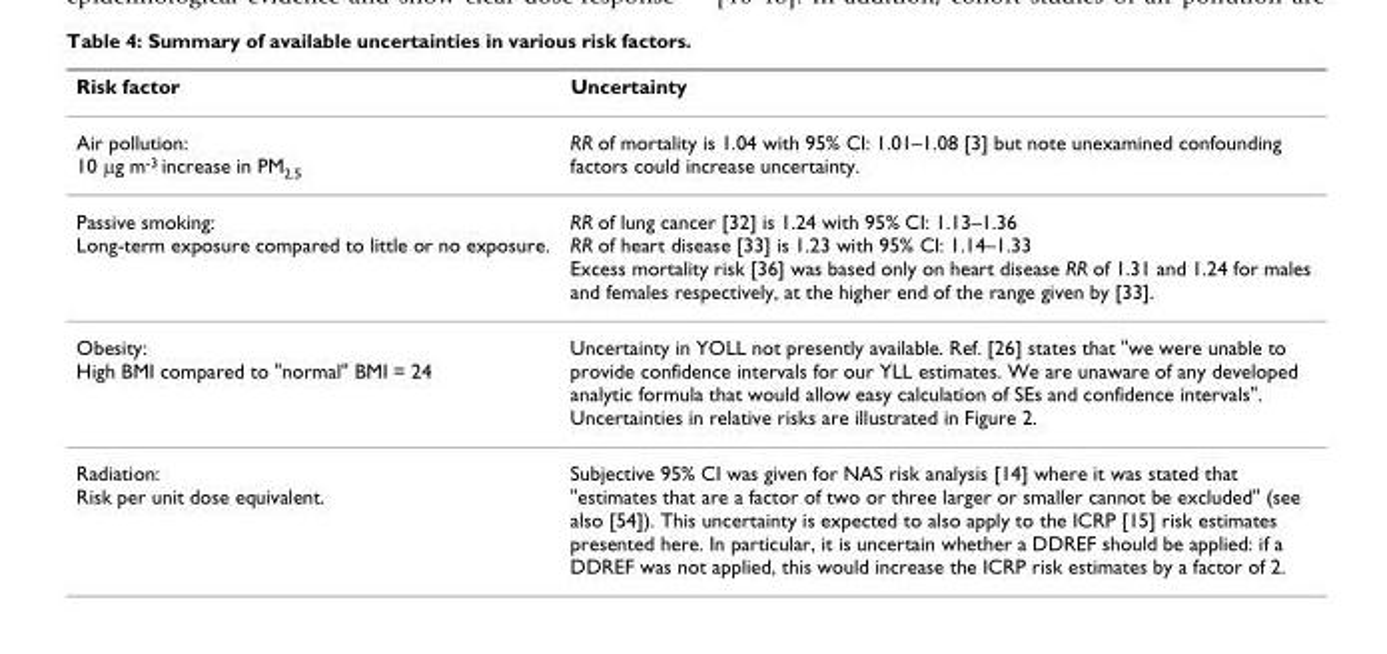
<table><thead><tr><td>Risk factor</td><td>Uncertainty</td></tr></thead><tbody><tr><td>Air pollution: 10 μg m<sup>-3</sup> increase in PM<sub>2.5</sub></td><td>RR of mortality is 1.04 with 95% CI: 1.01–1.08 [3] but note unexamined confounding factors could increase uncertainty.</td></tr><tr><td>Passive smoking: Long-term exposure compared to little or no exposure.</td><td>RR of lung cancer [32] is 1.24 with 95% CI: 1.13–1.36 RR of heart disease [33] is 1.23 with 95% CI: 1.14–1.33 Excess mortality risk [36] was based only on heart disease RR of 1.31 and 1.24 for males and females respectively, at the higher end of the range given by [33].</td></tr><tr><td>Obesity: High BMI compared to &quot;normal&quot; BMI = 24</td><td>Uncertainty in YOLL not presently available. Ref. [26] states that &quot;we were unable to provide confidence intervals for our YLL estimates. We are unaware of any developed analytic formula that would allow easy calculation of SEs and confidence intervals&quot;. Uncertainties in relative risks are illustrated in Figure 2.</td></tr><tr><td>Radiation: Risk per unit dose equivalent.</td><td>Subjective 95% CI was given for NAS risk analysis [14] where it was stated that &quot;estimates that are a factor of two or three larger or smaller cannot be excluded&quot; (see also [54]). This uncertainty is expected to also apply to the ICRP [15] risk estimates presented here. In particular, it is uncertain whether a DDREF should be applied: if a DDREF was not applied, this would increase the ICRP risk estimates by a factor of 2.</td></tr></tbody></table>